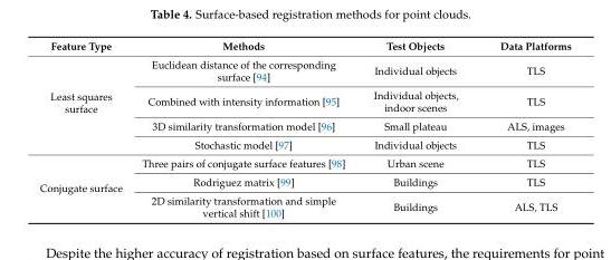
<table><thead><tr><td>Feature Type</td><td>Methods</td><td>Test Objects</td><td>Data Platforms</td></tr></thead><tbody><tr><td rowspan="4">Least squares surface</td><td>Euclidean distance of the corresponding surface [94]</td><td>Individual objects</td><td>TLS</td></tr><tr><td>Combined with intensity information [95]</td><td>Individual objects, indoor scenes</td><td>TLS</td></tr><tr><td>3D similarity transformation model [96]</td><td>Small plateau</td><td>ALS, images</td></tr><tr><td>Stochastic model [97]</td><td>Individual objects</td><td>TLS</td></tr><tr><td rowspan="3">Conjugate surface</td><td>Three pairs of conjugate surface features [98]</td><td>Urban scene</td><td>TLS</td></tr><tr><td>Rodriguez matrix [99]</td><td>Buildings</td><td>TLS</td></tr><tr><td>2D similarity transformation and simple vertical shift [100]</td><td>Buildings</td><td>ALS, TLS</td></tr></tbody></table>